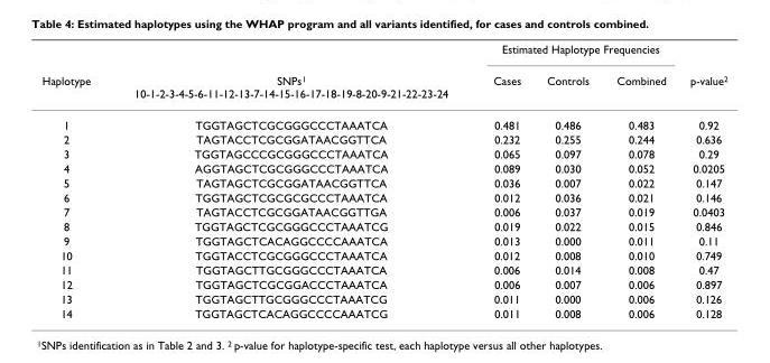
<table><thead><tr><td rowspan="2">Haplotype</td><td rowspan="2">SNPs<sup>1</sup> 10-1-2-3-4-5-6-11-12-13-7-14-15-16-17-18-19-8-20-9-21-22-23-24</td><td colspan="3">Estimated Haplotype Frequencies</td><td rowspan="2">p-value<sup>2</sup></td></tr><tr><td>Cases</td><td>Controls</td><td>Combined</td></tr></thead><tbody><tr><td>1</td><td>TGGTAGCTCGCGGGCCCTAAATCA</td><td>0.481</td><td>0.486</td><td>0.483</td><td>0.92</td></tr><tr><td>2</td><td>TAGTACCTCGCGGATAACGGTTCA</td><td>0.232</td><td>0.255</td><td>0.244</td><td>0.636</td></tr><tr><td>3</td><td>TGGTAGCCCGCGGGCCCTAAATCA</td><td>0.065</td><td>0.097</td><td>0.078</td><td>0.29</td></tr><tr><td>4</td><td>AGGTAGCTCGCGGGCCCTAAATCA</td><td>0.089</td><td>0.030</td><td>0.052</td><td>0.0205</td></tr><tr><td>5</td><td>TAGTAGCTCGCGGATAACGGTTCA</td><td>0.036</td><td>0.007</td><td>0.022</td><td>0.147</td></tr><tr><td>6</td><td>TGGTAGCTCGCGCGCCCTAAATCA</td><td>0.012</td><td>0.036</td><td>0.021</td><td>0.146</td></tr><tr><td>7</td><td>TAGTACCTCGCGGATAACGGTTGA</td><td>0.006</td><td>0.037</td><td>0.019</td><td>0.0403</td></tr><tr><td>8</td><td>TGGTAGCTCGCGGGCCCTAAATCG</td><td>0.019</td><td>0.022</td><td>0.015</td><td>0.846</td></tr><tr><td>9</td><td>TGGTAGCTCACAGGCCCCAAATCA</td><td>0.013</td><td>0.000</td><td>0.011</td><td>0.11</td></tr><tr><td>10</td><td>TGGTACCTCGCGGGCCCTAAATCA</td><td>0.012</td><td>0.008</td><td>0.010</td><td>0.749</td></tr><tr><td>11</td><td>TGGTAGCTTGCGGGCCCTAAATCA</td><td>0.006</td><td>0.014</td><td>0.008</td><td>0.47</td></tr><tr><td>12</td><td>TGGTAGCTCGCGGACCCTAAATCA</td><td>0.006</td><td>0.007</td><td>0.006</td><td>0.897</td></tr><tr><td>13</td><td>TGGTAGCTTGCGGGCCCTAAATCG</td><td>0.011</td><td>0.000</td><td>0.006</td><td>0.126</td></tr><tr><td>14</td><td>TGGTAGCTCACAGGCCCCAAATCG</td><td>0.011</td><td>0.008</td><td>0.006</td><td>0.128</td></tr></tbody></table>